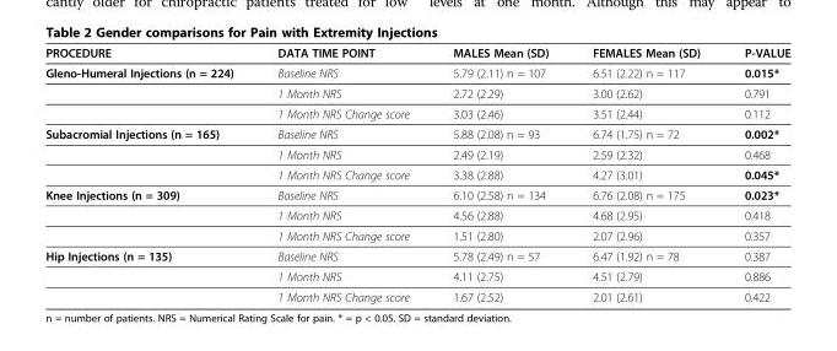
<table><thead><tr><td>PROCEDURE</td><td>DATA TIME POINT</td><td>MALES Mean (SD)</td><td>FEMALES Mean (SD)</td><td>P-VALUE</td></tr></thead><tbody><tr><td rowspan="3">Gleno-Humeral Injections (n = 224)</td><td>Baseline NRS</td><td>5.79 (2.11) n = 107</td><td>6.51 (2.22) n = 117</td><td>0.015*</td></tr><tr><td>1 Month NRS</td><td>2.72 (2.29)</td><td>3.00 (2.62)</td><td>0.791</td></tr><tr><td>1 Month NRS Change score</td><td>3.03 (2.46)</td><td>3.51 (2.44)</td><td>0.112</td></tr><tr><td rowspan="3">Subacromial Injections (n = 165)</td><td>Baseline NRS</td><td>5.88 (2.08) n = 93</td><td>6.74 (1.75) n = 72</td><td>0.002*</td></tr><tr><td>1 Month NRS</td><td>2.49 (2.19)</td><td>2.59 (2.32)</td><td>0.468</td></tr><tr><td>1 Month NRS Change score</td><td>3.38 (2.88)</td><td>4.27 (3.01)</td><td>0.045*</td></tr><tr><td rowspan="3">Knee Injections (n = 309)</td><td>Baseline NRS</td><td>6.10 (2.58) n = 134</td><td>6.76 (2.08) n = 175</td><td>0.023*</td></tr><tr><td>1 Month NRS</td><td>4.56 (2.88)</td><td>4.68 (2.95)</td><td>0.418</td></tr><tr><td>1 Month NRS Change score</td><td>1.51 (2.80)</td><td>2.07 (2.96)</td><td>0.357</td></tr><tr><td rowspan="3">Hip Injections (n = 135)</td><td>Baseline NRS</td><td>5.78 (2.49) n = 57</td><td>6.47 (1.92) n = 78</td><td>0.387</td></tr><tr><td>1 Month NRS</td><td>4.11 (2.75)</td><td>4.51 (2.79)</td><td>0.886</td></tr><tr><td>1 Month NRS Change score</td><td>1.67 (2.52)</td><td>2.01 (2.61)</td><td>0.422</td></tr></tbody></table>